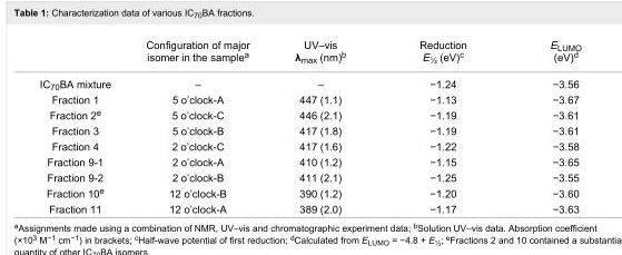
<table><thead><tr><td></td><td>Configuration of major isomer in the sample<sup>a</sup></td><td>UV–vis λ<sub>max</sub> (nm)<sup>b</sup></td><td>Reduction E<sub>½</sub> (eV)<sup>c</sup></td><td>E<sub>LUMO</sub> (eV)<sup>d</sup></td></tr></thead><tbody><tr><td>IC<sub>70</sub>BA mixture</td><td>–</td><td>–</td><td>−1.24</td><td>−3.56</td></tr><tr><td>Fraction 1</td><td>5 o’clock-A</td><td>447 (1.1)</td><td>−1.13</td><td>−3.67</td></tr><tr><td>Fraction 2<sup>e</sup></td><td>5 o’clock-C</td><td>446 (2.1)</td><td>−1.19</td><td>−3.61</td></tr><tr><td>Fraction 3</td><td>5 o’clock-B</td><td>417 (1.8)</td><td>−1.19</td><td>−3.61</td></tr><tr><td>Fraction 4</td><td>2 o’clock-C</td><td>417 (1.6)</td><td>−1.22</td><td>−3.58</td></tr><tr><td>Fraction 9-1</td><td>2 o’clock-A</td><td>410 (1.2)</td><td>−1.15</td><td>−3.65</td></tr><tr><td>Fraction 9-2</td><td>2 o’clock-B</td><td>411 (2.1)</td><td>−1.25</td><td>−3.55</td></tr><tr><td>Fraction 10<sup>e</sup></td><td>12 o’clock-B</td><td>390 (1.2)</td><td>−1.20</td><td>−3.60</td></tr><tr><td>Fraction 11</td><td>12 o’clock-A</td><td>389 (2.0)</td><td>−1.17</td><td>−3.63</td></tr></tbody></table>